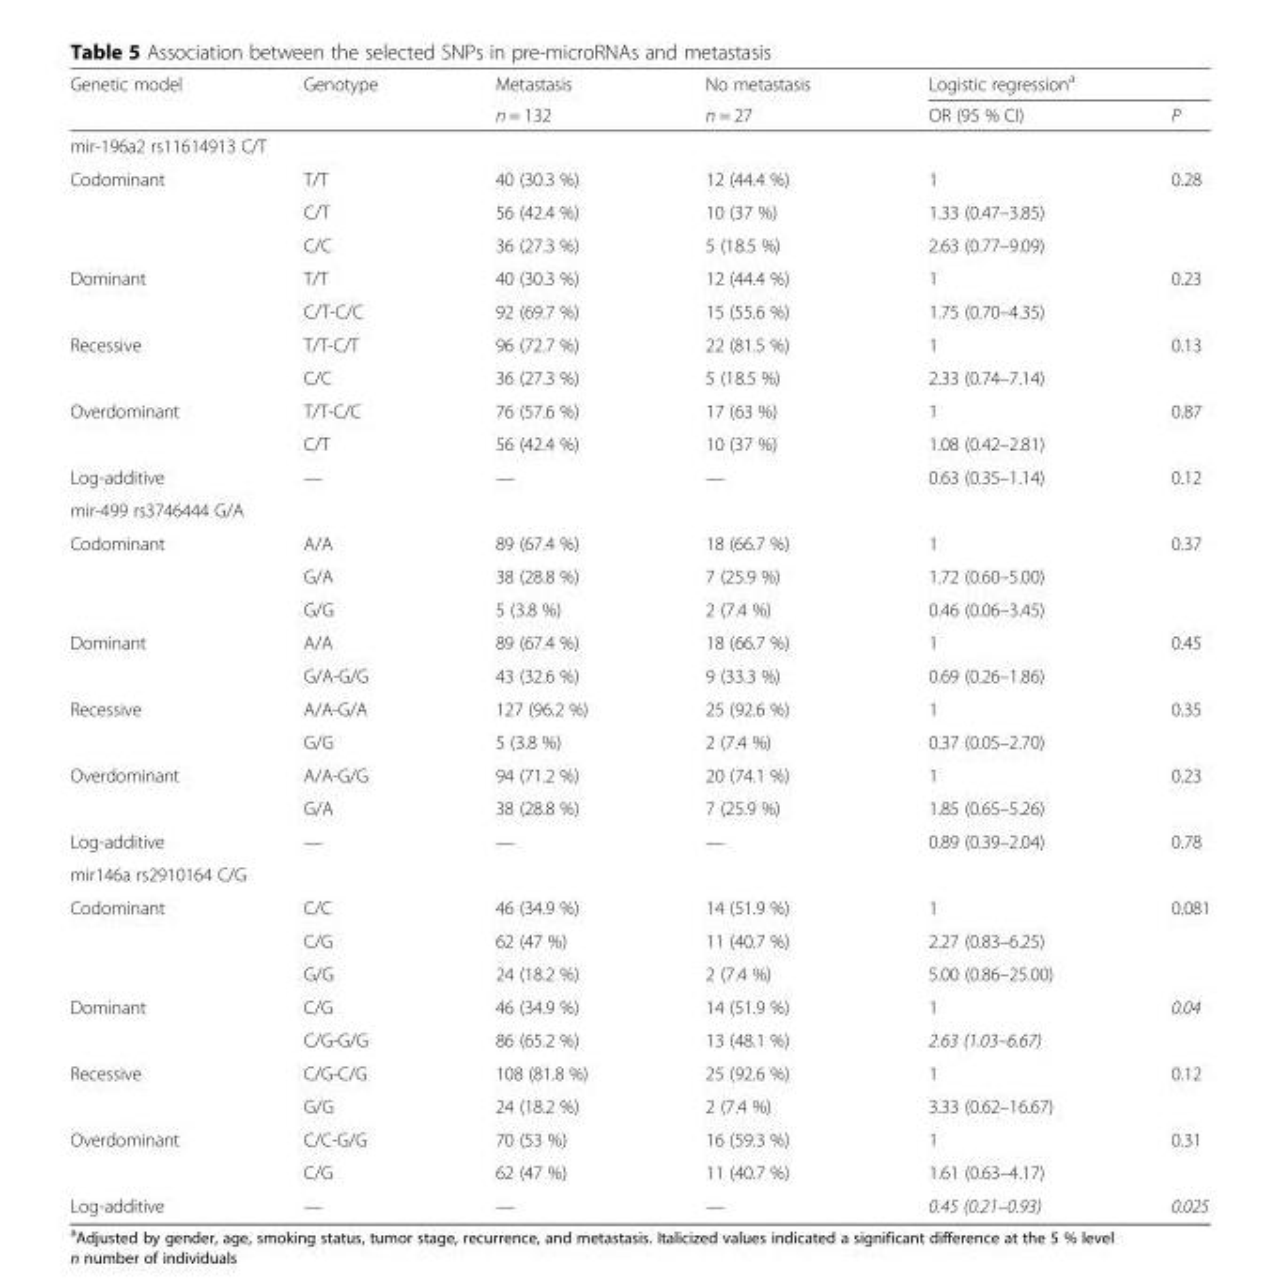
<table><thead><tr><td rowspan="2">Genetic model</td><td rowspan="2">Genotype</td><td rowspan="2">Metastasis n = 132</td><td rowspan="2">No metastasis n = 27</td><td colspan="2">Logistic regression<sup>a</sup></td></tr><tr><td>OR (95 % CI)</td><td>P</td></tr></thead><tbody><tr><td colspan="6">mir-196a2 rs11614913 C/T</td></tr><tr><td rowspan="3">Codominant</td><td>T/T</td><td>40 (30.3 %)</td><td>12 (44.4 %)</td><td>1</td><td rowspan="3">0.28</td></tr><tr><td>C/T</td><td>56 (42.4 %)</td><td>10 (37 %)</td><td>1.33 (0.47–3.85)</td></tr><tr><td>C/C</td><td>36 (27.3 %)</td><td>5 (18.5 %)</td><td>2.63 (0.77–9.09)</td></tr><tr><td rowspan="2">Dominant</td><td>T/T</td><td>40 (30.3 %)</td><td>12 (44.4 %)</td><td>1</td><td rowspan="2">0.23</td></tr><tr><td>C/T-C/C</td><td>92 (69.7 %)</td><td>15 (55.6 %)</td><td>1.75 (0.70–4.35)</td></tr><tr><td rowspan="2">Recessive</td><td>T/T-C/T</td><td>96 (72.7 %)</td><td>22 (81.5 %)</td><td>1</td><td rowspan="2">0.13</td></tr><tr><td>C/C</td><td>36 (27.3 %)</td><td>5 (18.5 %)</td><td>2.33 (0.74–7.14)</td></tr><tr><td rowspan="2">Overdominant</td><td>T/T-C/C</td><td>76 (57.6 %)</td><td>17 (63 %)</td><td>1</td><td rowspan="2">0.87</td></tr><tr><td>C/T</td><td>56 (42.4 %)</td><td>10 (37 %)</td><td>1.08 (0.42–2.81)</td></tr><tr><td>Log-additive</td><td>—</td><td>—</td><td>—</td><td>0.63 (0.35–1.14)</td><td>0.12</td></tr><tr><td colspan="6">mir-499 rs3746444 G/A</td></tr><tr><td rowspan="3">Codominant</td><td>A/A</td><td>89 (67.4 %)</td><td>18 (66.7 %)</td><td>1</td><td rowspan="3">0.37</td></tr><tr><td>G/A</td><td>38 (28.8 %)</td><td>7 (25.9 %)</td><td>1.72 (0.60–5.00)</td></tr><tr><td>G/G</td><td>5 (3.8 %)</td><td>2 (7.4 %)</td><td>0.46 (0.06–3.45)</td></tr><tr><td rowspan="2">Dominant</td><td>A/A</td><td>89 (67.4 %)</td><td>18 (66.7 %)</td><td>1</td><td rowspan="2">0.45</td></tr><tr><td>G/A-G/G</td><td>43 (32.6 %)</td><td>9 (33.3 %)</td><td>0.69 (0.26–1.86)</td></tr><tr><td rowspan="2">Recessive</td><td>A/A-G/A</td><td>127 (96.2 %)</td><td>25 (92.6 %)</td><td>1</td><td rowspan="2">0.35</td></tr><tr><td>G/G</td><td>5 (3.8 %)</td><td>2 (7.4 %)</td><td>0.37 (0.05–2.70)</td></tr><tr><td rowspan="2">Overdominant</td><td>A/A-G/G</td><td>94 (71.2 %)</td><td>20 (74.1 %)</td><td>1</td><td rowspan="2">0.23</td></tr><tr><td>G/A</td><td>38 (28.8 %)</td><td>7 (25.9 %)</td><td>1.85 (0.65–5.26)</td></tr><tr><td>Log-additive</td><td>—</td><td>—</td><td>—</td><td>0.89 (0.39–2.04)</td><td>0.78</td></tr><tr><td colspan="6">mir146a rs2910164 C/G</td></tr><tr><td rowspan="3">Codominant</td><td>C/C</td><td>46 (34.9 %)</td><td>14 (51.9 %)</td><td>1</td><td rowspan="3">0.081</td></tr><tr><td>C/G</td><td>62 (47 %)</td><td>11 (40.7 %)</td><td>2.27 (0.83–6.25)</td></tr><tr><td>G/G</td><td>24 (18.2 %)</td><td>2 (7.4 %)</td><td>5.00 (0.86–25.00)</td></tr><tr><td rowspan="2">Dominant</td><td>C/G</td><td>46 (34.9 %)</td><td>14 (51.9 %)</td><td>1</td><td rowspan="2">0.04</td></tr><tr><td>C/G-G/G</td><td>86 (65.2 %)</td><td>13 (48.1 %)</td><td>2.63 (1.03–6.67)</td></tr><tr><td rowspan="2">Recessive</td><td>C/G-C/G</td><td>108 (81.8 %)</td><td>25 (92.6 %)</td><td>1</td><td rowspan="2">0.12</td></tr><tr><td>G/G</td><td>24 (18.2 %)</td><td>2 (7.4 %)</td><td>3.33 (0.62–16.67)</td></tr><tr><td rowspan="2">Overdominant</td><td>C/C-G/G</td><td>70 (53 %)</td><td>16 (59.3 %)</td><td>1</td><td rowspan="2">0.31</td></tr><tr><td>C/G</td><td>62 (47 %)</td><td>11 (40.7 %)</td><td>1.61 (0.63–4.17)</td></tr><tr><td>Log-additive</td><td>—</td><td>—</td><td>—</td><td>0.45 (0.21–0.93)</td><td>0.025</td></tr></tbody></table>